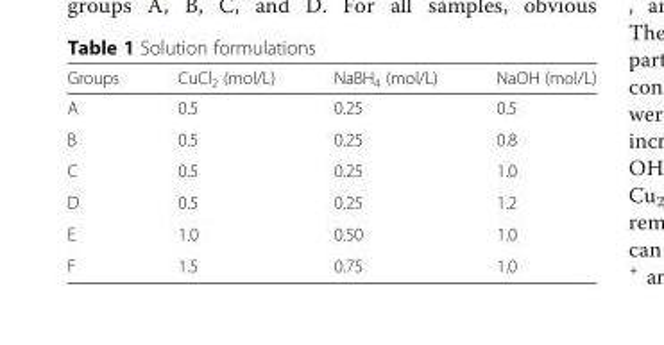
<table><thead><tr><td>Groups</td><td>CuCl<sub>2</sub> (mol/L)</td><td>NaBH<sub>4</sub> (mol/L)</td><td>NaOH (mol/L)</td></tr></thead><tbody><tr><td>A</td><td>0.5</td><td>0.25</td><td>0.5</td></tr><tr><td>B</td><td>0.5</td><td>0.25</td><td>0.8</td></tr><tr><td>C</td><td>0.5</td><td>0.25</td><td>1.0</td></tr><tr><td>D</td><td>0.5</td><td>0.25</td><td>1.2</td></tr><tr><td>E</td><td>1.0</td><td>0.50</td><td>1.0</td></tr><tr><td>F</td><td>1.5</td><td>0.75</td><td>1.0</td></tr></tbody></table>